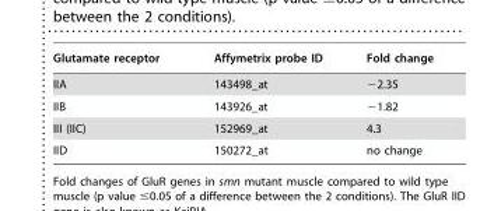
<table><thead><tr><td>Glutamate receptor</td><td>Affymetrix probe ID</td><td>Fold change</td></tr></thead><tbody><tr><td>IIA</td><td>143498_at</td><td>−2.35</td></tr><tr><td>IIB</td><td>143926_at</td><td>−1.82</td></tr><tr><td>III (IIC)</td><td>152969_at</td><td>4.3</td></tr><tr><td>IID</td><td>150272_at</td><td>no change</td></tr></tbody></table>